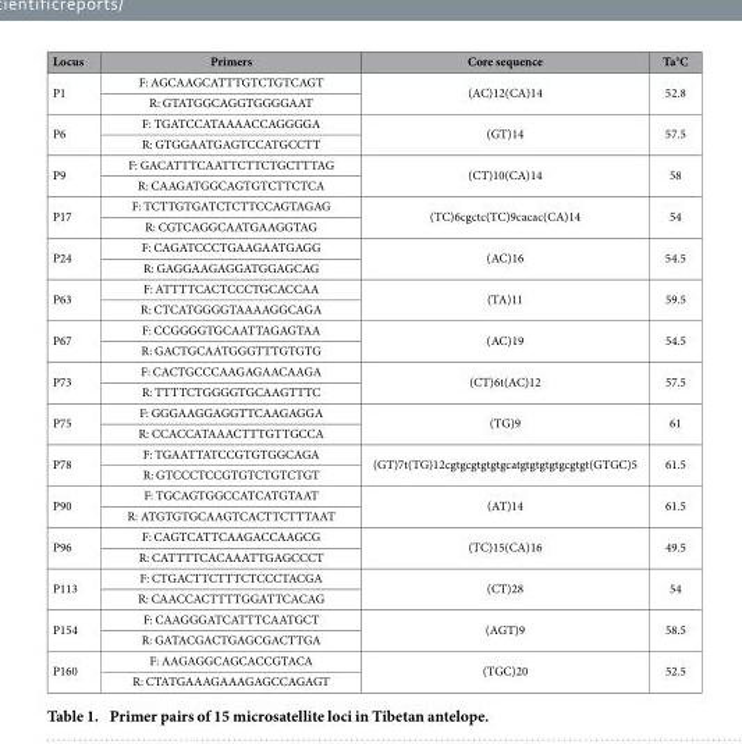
<table><thead><tr><td>Locus</td><td>Primers</td><td>Core sequence</td><td>Ta°C</td></tr></thead><tbody><tr><td rowspan="2">P1</td><td>F: AGCAAGCATTTGTCTGTCAGT</td><td rowspan="2">(AC)12(CA)14</td><td rowspan="2">52.8</td></tr><tr><td>R: GTATGGCAGGTGGGGAAT</td></tr><tr><td rowspan="2">P6</td><td>F: TGATCCATAAAACCAGGGGA</td><td rowspan="2">(GT)14</td><td rowspan="2">57.5</td></tr><tr><td>R: GTGGAATGAGTCCATGCCTT</td></tr><tr><td rowspan="2">P9</td><td>F: GACATTTCAATTCTTCTGCTTTAG</td><td rowspan="2">(CT)10(CA)14</td><td rowspan="2">58</td></tr><tr><td>R: CAAGATGGCAGTGTCTTCTCA</td></tr><tr><td rowspan="2">P17</td><td>F: TCTTGTGATCTCTTCCAGTAGAG</td><td rowspan="2">(TC)6cgctc(TC)9cacac(CA)14</td><td rowspan="2">54</td></tr><tr><td>R: CGTCAGGCAATGAAGGTAG</td></tr><tr><td rowspan="2">P24</td><td>F: CAGATCCCTGAAGAATGAGG</td><td rowspan="2">(AC)16</td><td rowspan="2">54.5</td></tr><tr><td>R: GAGGAAGAGGATGGAGCAG</td></tr><tr><td rowspan="2">P63</td><td>F: ATTTTCACTCCCTGCACCAA</td><td rowspan="2">(TA)11</td><td rowspan="2">59.5</td></tr><tr><td>R: CTCATGGGGTAAAAGGCAGA</td></tr><tr><td rowspan="2">P67</td><td>F: CCGGGGTGCAATTAGAGTAA</td><td rowspan="2">(AC)19</td><td rowspan="2">54.5</td></tr><tr><td>R: GACTGCAATGGGTTTGTGTG</td></tr><tr><td rowspan="2">P73</td><td>F: CACTGCCCAAGAGAACAAGA</td><td rowspan="2">(CT)6t(AC)12</td><td rowspan="2">57.5</td></tr><tr><td>R: TTTTCTGGGGTGCAAGTTTC</td></tr><tr><td rowspan="2">P75</td><td>F: GGGAAGGAGGTTCAAGAGGA</td><td rowspan="2">(TG)9</td><td rowspan="2">61</td></tr><tr><td>R: CCACCATAAACTTTGTTGCCA</td></tr><tr><td rowspan="2">P78</td><td>F: TGAATTATCCGTGTGGCAGA</td><td rowspan="2">(GT)7t(TG)12cgtgcgtgtgtgcatgtgtgtgtgcgtgt(GTGC)5</td><td rowspan="2">61.5</td></tr><tr><td>R: GTCCCTCCGTGTCTGTCTGT</td></tr><tr><td rowspan="2">P90</td><td>F: TGCAGTGGCCATCATGTAAT</td><td rowspan="2">(AT)14</td><td rowspan="2">61.5</td></tr><tr><td>R: ATGTGTGCAAGTCACTTCTTTAAT</td></tr><tr><td rowspan="2">P96</td><td>F: CAGTCATTCAAGACCAAGCG</td><td rowspan="2">(TC)15(CA)16</td><td rowspan="2">49.5</td></tr><tr><td>R: CATTTTCACAAATTGAGCCCT</td></tr><tr><td rowspan="2">P113</td><td>F: CTGACTTCTTTCTCCCTACGA</td><td rowspan="2">(CT)28</td><td rowspan="2">54</td></tr><tr><td>R: CAACCACTTTTGGATTCACAG</td></tr><tr><td rowspan="2">P154</td><td>F: CAAGGGATCATTTCAATGCT</td><td rowspan="2">(AGT)9</td><td rowspan="2">58.5</td></tr><tr><td>R: GATACGACTGAGCGACTTGA</td></tr><tr><td rowspan="2">P160</td><td>F: AAGAGGCAGCACCGTACA</td><td rowspan="2">(TGC)20</td><td rowspan="2">52.5</td></tr><tr><td>R: CTATGAAAGAAAGAGCCAGAGT</td></tr></tbody></table>